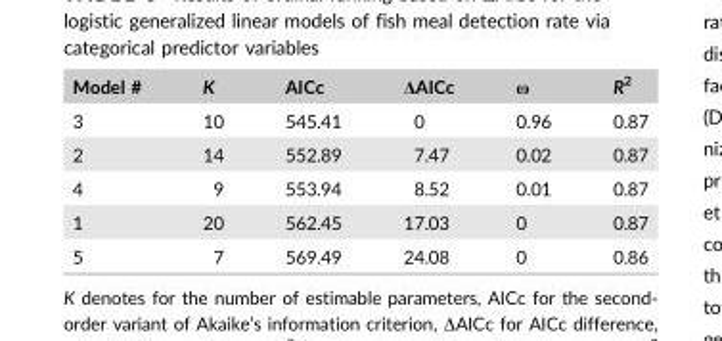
<table><thead><tr><td>Model #</td><td>K</td><td>AICc</td><td>ΔAICc</td><td>ω</td><td>R<sup>2</sup></td></tr></thead><tbody><tr><td>3</td><td>10</td><td>545.41</td><td>0</td><td>0.96</td><td>0.87</td></tr><tr><td>2</td><td>14</td><td>552.89</td><td>7.47</td><td>0.02</td><td>0.87</td></tr><tr><td>4</td><td>9</td><td>553.94</td><td>8.52</td><td>0.01</td><td>0.87</td></tr><tr><td>1</td><td>20</td><td>562.45</td><td>17.03</td><td>0</td><td>0.87</td></tr><tr><td>5</td><td>7</td><td>569.49</td><td>24.08</td><td>0</td><td>0.86</td></tr></tbody></table>